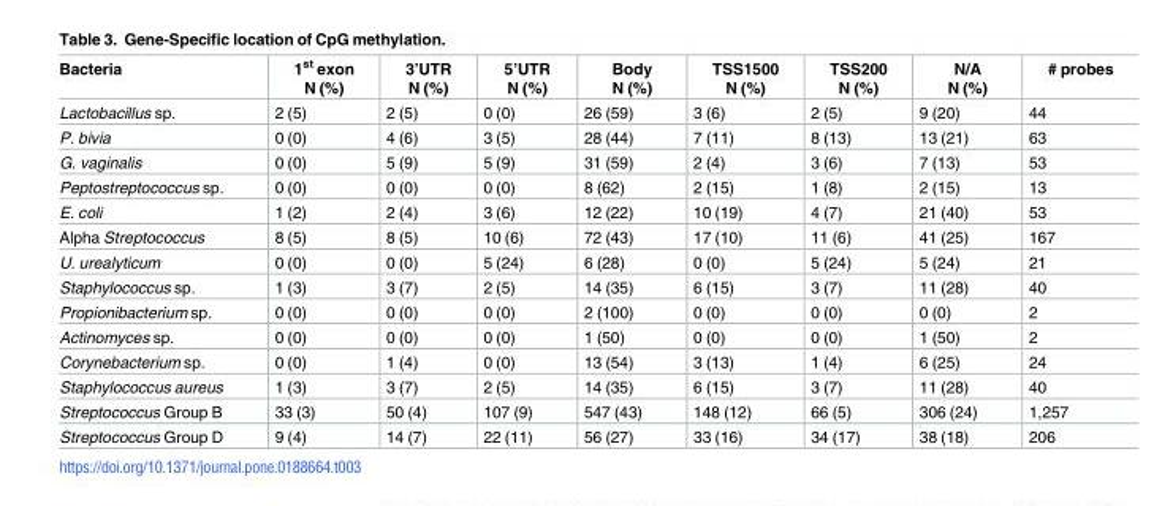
<table><thead><tr><td>Bacteria</td><td>1<sup>st</sup> exon N (%)</td><td>3’UTR N (%)</td><td>5’UTR N (%)</td><td>Body N (%)</td><td>TSS1500 N (%)</td><td>TSS200 N (%)</td><td>N/A N (%)</td><td># probes</td></tr></thead><tbody><tr><td>Lactobacillus sp.</td><td>2 (5)</td><td>2 (5)</td><td>0 (0)</td><td>26 (59)</td><td>3 (6)</td><td>2 (5)</td><td>9 (20)</td><td>44</td></tr><tr><td>P. bivia</td><td>0 (0)</td><td>4 (6)</td><td>3 (5)</td><td>28 (44)</td><td>7 (11)</td><td>8 (13)</td><td>13 (21)</td><td>63</td></tr><tr><td>G. vaginalis</td><td>0 (0)</td><td>5 (9)</td><td>5 (9)</td><td>31 (59)</td><td>2 (4)</td><td>3 (6)</td><td>7 (13)</td><td>53</td></tr><tr><td>Peptostreptococcus sp.</td><td>0 (0)</td><td>0 (0)</td><td>0 (0)</td><td>8 (62)</td><td>2 (15)</td><td>1 (8)</td><td>2 (15)</td><td>13</td></tr><tr><td>E. coli</td><td>1 (2)</td><td>2 (4)</td><td>3 (6)</td><td>12 (22)</td><td>10 (19)</td><td>4 (7)</td><td>21 (40)</td><td>53</td></tr><tr><td>Alpha Streptococcus</td><td>8 (5)</td><td>8 (5)</td><td>10 (6)</td><td>72 (43)</td><td>17 (10)</td><td>11 (6)</td><td>41 (25)</td><td>167</td></tr><tr><td>U. urealyticum</td><td>0 (0)</td><td>0 (0)</td><td>5 (24)</td><td>6 (28)</td><td>0 (0)</td><td>5 (24)</td><td>5 (24)</td><td>21</td></tr><tr><td>Staphylococcus sp.</td><td>1 (3)</td><td>3 (7)</td><td>2 (5)</td><td>14 (35)</td><td>6 (15)</td><td>3 (7)</td><td>11 (28)</td><td>40</td></tr><tr><td>Propionibacterium sp.</td><td>0 (0)</td><td>0 (0)</td><td>0 (0)</td><td>2 (100)</td><td>0 (0)</td><td>0 (0)</td><td>0 (0)</td><td>2</td></tr><tr><td>Actinomyces sp.</td><td>0 (0)</td><td>0 (0)</td><td>0 (0)</td><td>1 (50)</td><td>0 (0)</td><td>0 (0)</td><td>1 (50)</td><td>2</td></tr><tr><td>Corynebacterium sp.</td><td>0 (0)</td><td>1 (4)</td><td>0 (0)</td><td>13 (54)</td><td>3 (13)</td><td>1 (4)</td><td>6 (25)</td><td>24</td></tr><tr><td>Staphylococcus aureus</td><td>1 (3)</td><td>3 (7)</td><td>2 (5)</td><td>14 (35)</td><td>6 (15)</td><td>3 (7)</td><td>11 (28)</td><td>40</td></tr><tr><td>Streptococcus Group B</td><td>33 (3)</td><td>50 (4)</td><td>107 (9)</td><td>547 (43)</td><td>148 (12)</td><td>66 (5)</td><td>306 (24)</td><td>1,257</td></tr><tr><td>Streptococcus Group D</td><td>9 (4)</td><td>14 (7)</td><td>22 (11)</td><td>56 (27)</td><td>33 (16)</td><td>34 (17)</td><td>38 (18)</td><td>206</td></tr></tbody></table>